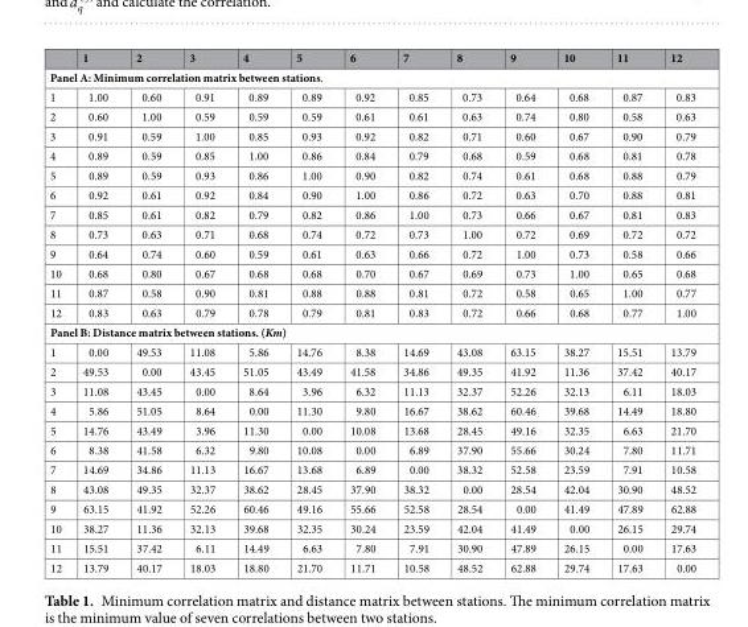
<table><thead><tr><td></td><td>1</td><td>2</td><td>3</td><td>4</td><td>5</td><td>6</td><td>7</td><td>8</td><td>9</td><td>10</td><td>11</td><td>12</td></tr></thead><tbody><tr><td colspan="13">Panel A: Minimum correlation matrix between stations.</td></tr><tr><td>1</td><td>1.00</td><td>0.60</td><td>0.91</td><td>0.89</td><td>0.89</td><td>0.92</td><td>0.85</td><td>0.73</td><td>0.64</td><td>0.68</td><td>0.87</td><td>0.83</td></tr><tr><td>2</td><td>0.60</td><td>1.00</td><td>0.59</td><td>0.59</td><td>0.59</td><td>0.61</td><td>0.61</td><td>0.63</td><td>0.74</td><td>0.80</td><td>0.58</td><td>0.63</td></tr><tr><td>3</td><td>0.91</td><td>0.59</td><td>1.00</td><td>0.85</td><td>0.93</td><td>0.92</td><td>0.82</td><td>0.71</td><td>0.60</td><td>0.67</td><td>0.90</td><td>0.79</td></tr><tr><td>4</td><td>0.89</td><td>0.59</td><td>0.85</td><td>1.00</td><td>0.86</td><td>0.84</td><td>0.79</td><td>0.68</td><td>0.59</td><td>0.68</td><td>0.81</td><td>0.78</td></tr><tr><td>5</td><td>0.89</td><td>0.59</td><td>0.93</td><td>0.86</td><td>1.00</td><td>0.90</td><td>0.82</td><td>0.74</td><td>0.61</td><td>0.68</td><td>0.88</td><td>0.79</td></tr><tr><td>6</td><td>0.92</td><td>0.61</td><td>0.92</td><td>0.84</td><td>0.90</td><td>1.00</td><td>0.86</td><td>0.72</td><td>0.63</td><td>0.70</td><td>0.88</td><td>0.81</td></tr><tr><td>7</td><td>0.85</td><td>0.61</td><td>0.82</td><td>0.79</td><td>0.82</td><td>0.86</td><td>1.00</td><td>0.73</td><td>0.66</td><td>0.67</td><td>0.81</td><td>0.83</td></tr><tr><td>8</td><td>0.73</td><td>0.63</td><td>0.71</td><td>0.68</td><td>0.74</td><td>0.72</td><td>0.73</td><td>1.00</td><td>0.72</td><td>0.69</td><td>0.72</td><td>0.72</td></tr><tr><td>9</td><td>0.64</td><td>0.74</td><td>0.60</td><td>0.59</td><td>0.61</td><td>0.63</td><td>0.66</td><td>0.72</td><td>1.00</td><td>0.73</td><td>0.58</td><td>0.66</td></tr><tr><td>10</td><td>0.68</td><td>0.80</td><td>0.67</td><td>0.68</td><td>0.68</td><td>0.70</td><td>0.67</td><td>0.69</td><td>0.73</td><td>1.00</td><td>0.65</td><td>0.68</td></tr><tr><td>11</td><td>0.87</td><td>0.58</td><td>0.90</td><td>0.81</td><td>0.88</td><td>0.88</td><td>0.81</td><td>0.72</td><td>0.58</td><td>0.65</td><td>1.00</td><td>0.77</td></tr><tr><td>12</td><td>0.83</td><td>0.63</td><td>0.79</td><td>0.78</td><td>0.79</td><td>0.81</td><td>0.83</td><td>0.72</td><td>0.66</td><td>0.68</td><td>0.77</td><td>1.00</td></tr><tr><td colspan="13">Panel B: Distance matrix between stations. (Km)</td></tr><tr><td>1</td><td>0.00</td><td>49.53</td><td>11.08</td><td>5.86</td><td>14.76</td><td>8.38</td><td>14.69</td><td>43.08</td><td>63.15</td><td>38.27</td><td>15.51</td><td>13.79</td></tr><tr><td>2</td><td>49.53</td><td>0.00</td><td>43.45</td><td>51.05</td><td>43.49</td><td>41.58</td><td>34.86</td><td>49.35</td><td>41.92</td><td>11.36</td><td>37.42</td><td>40.17</td></tr><tr><td>3</td><td>11.08</td><td>43.45</td><td>0.00</td><td>8.64</td><td>3.96</td><td>6.32</td><td>11.13</td><td>32.37</td><td>52.26</td><td>32.13</td><td>6.11</td><td>18.03</td></tr><tr><td>4</td><td>5.86</td><td>51.05</td><td>8.64</td><td>0.00</td><td>11.30</td><td>9.80</td><td>16.67</td><td>38.62</td><td>60.46</td><td>39.68</td><td>14.49</td><td>18.80</td></tr><tr><td>5</td><td>14.76</td><td>43.49</td><td>3.96</td><td>11.30</td><td>0.00</td><td>10.08</td><td>13.68</td><td>28.45</td><td>49.16</td><td>32.35</td><td>6.63</td><td>21.70</td></tr><tr><td>6</td><td>8.38</td><td>41.58</td><td>6.32</td><td>9.80</td><td>10.08</td><td>0.00</td><td>6.89</td><td>37.90</td><td>55.66</td><td>30.24</td><td>7.80</td><td>11.71</td></tr><tr><td>7</td><td>14.69</td><td>34.86</td><td>11.13</td><td>16.67</td><td>13.68</td><td>6.89</td><td>0.00</td><td>38.32</td><td>52.58</td><td>23.59</td><td>7.91</td><td>10.58</td></tr><tr><td>8</td><td>43.08</td><td>49.35</td><td>32.37</td><td>38.62</td><td>28.45</td><td>37.90</td><td>38.32</td><td>0.00</td><td>28.54</td><td>42.04</td><td>30.90</td><td>48.52</td></tr><tr><td>9</td><td>63.15</td><td>41.92</td><td>52.26</td><td>60.46</td><td>49.16</td><td>55.66</td><td>52.58</td><td>28.54</td><td>0.00</td><td>41.49</td><td>47.89</td><td>62.88</td></tr><tr><td>10</td><td>38.27</td><td>11.36</td><td>32.13</td><td>39.68</td><td>32.35</td><td>30.24</td><td>23.59</td><td>42.04</td><td>41.49</td><td>0.00</td><td>26.15</td><td>29.74</td></tr><tr><td>11</td><td>15.51</td><td>37.42</td><td>6.11</td><td>14.49</td><td>6.63</td><td>7.80</td><td>7.91</td><td>30.90</td><td>47.89</td><td>26.15</td><td>0.00</td><td>17.63</td></tr><tr><td>12</td><td>13.79</td><td>40.17</td><td>18.03</td><td>18.80</td><td>21.70</td><td>11.71</td><td>10.58</td><td>48.52</td><td>62.88</td><td>29.74</td><td>17.63</td><td>0.00</td></tr></tbody></table>